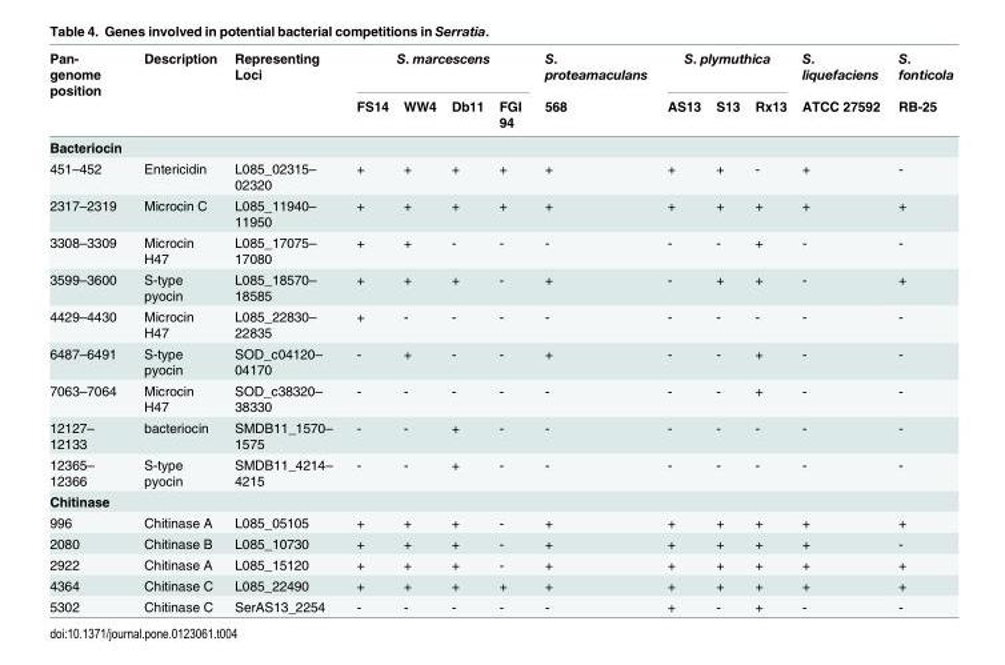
<table><thead><tr><td rowspan="2">Pan- genome position</td><td rowspan="2">Description</td><td rowspan="2">Representing Loci</td><td colspan="4">S. marcescens</td><td rowspan="2">S. proteamaculans 568</td><td colspan="3">S. plymuthica</td><td rowspan="2">S. liquefaciens ATCC 27592</td><td rowspan="2">S. fonticola RB-25</td></tr><tr><td>FS14</td><td>WW4</td><td>Db11</td><td>FGI 94</td><td>AS13</td><td>S13</td><td>Rx13</td></tr></thead><tbody><tr><td colspan="13">Bacteriocin</td></tr><tr><td>451–452</td><td>Entericidin</td><td>L085_02315– 02320</td><td>+</td><td>+</td><td>+</td><td>+</td><td>+</td><td>+</td><td>+</td><td>-</td><td>+</td><td>-</td></tr><tr><td>2317–2319</td><td>Microcin C</td><td>L085_11940– 11950</td><td>+</td><td>+</td><td>+</td><td>+</td><td>+</td><td>+</td><td>+</td><td>+</td><td>+</td><td>+</td></tr><tr><td>3308–3309</td><td>Microcin H47</td><td>L085_17075– 17080</td><td>+</td><td>+</td><td>-</td><td>-</td><td>-</td><td>-</td><td>-</td><td>+</td><td>-</td><td>-</td></tr><tr><td>3599–3600</td><td>S-type pyocin</td><td>L085_18570– 18585</td><td>+</td><td>+</td><td>+</td><td>-</td><td>+</td><td>-</td><td>+</td><td>+</td><td>-</td><td>+</td></tr><tr><td>4429–4430</td><td>Microcin H47</td><td>L085_22830– 22835</td><td>+</td><td>-</td><td>-</td><td>-</td><td>-</td><td>-</td><td>-</td><td>-</td><td>-</td><td>-</td></tr><tr><td>6487–6491</td><td>S-type pyocin</td><td>SOD_c04120– 04170</td><td>-</td><td>+</td><td>-</td><td>-</td><td>+</td><td>-</td><td>-</td><td>+</td><td>-</td><td>-</td></tr><tr><td>7063–7064</td><td>Microcin H47</td><td>SOD_c38320– 38330</td><td>-</td><td>-</td><td>-</td><td>-</td><td>-</td><td>-</td><td>-</td><td>+</td><td>-</td><td>-</td></tr><tr><td>12127– 12133</td><td>bacteriocin</td><td>SMDB11_1570– 1575</td><td>-</td><td>-</td><td>+</td><td>-</td><td>-</td><td>-</td><td>-</td><td>-</td><td>-</td><td>-</td></tr><tr><td>12365– 12366</td><td>S-type pyocin</td><td>SMDB11_4214– 4215</td><td>-</td><td>-</td><td>+</td><td>-</td><td>-</td><td>-</td><td>-</td><td>-</td><td>-</td><td>-</td></tr><tr><td colspan="13">Chitinase</td></tr><tr><td>996</td><td>Chitinase A</td><td>L085_05105</td><td>+</td><td>+</td><td>+</td><td>-</td><td>+</td><td>+</td><td>+</td><td>+</td><td>+</td><td>+</td></tr><tr><td>2080</td><td>Chitinase B</td><td>L085_10730</td><td>+</td><td>+</td><td>+</td><td>-</td><td>+</td><td>+</td><td>+</td><td>+</td><td>+</td><td>-</td></tr><tr><td>2922</td><td>Chitinase A</td><td>L085_15120</td><td>+</td><td>+</td><td>+</td><td>-</td><td>+</td><td>+</td><td>+</td><td>+</td><td>+</td><td>+</td></tr><tr><td>4364</td><td>Chitinase C</td><td>L085_22490</td><td>+</td><td>+</td><td>+</td><td>+</td><td>+</td><td>+</td><td>+</td><td>+</td><td>+</td><td>+</td></tr><tr><td>5302</td><td>Chitinase C</td><td>SerAS13_2254</td><td>-</td><td>-</td><td>-</td><td>-</td><td>-</td><td>+</td><td>-</td><td>+</td><td>-</td><td>-</td></tr></tbody></table>